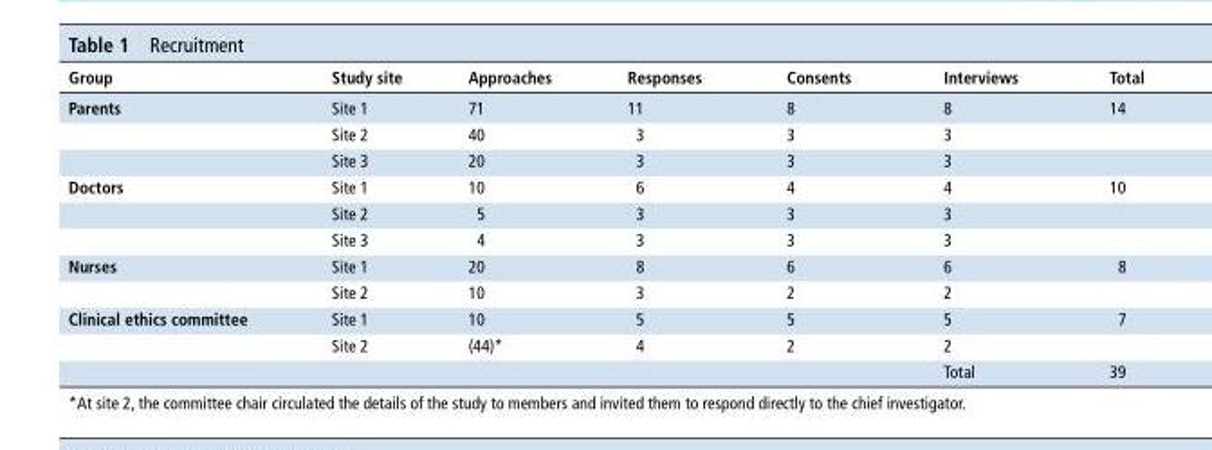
<table><thead><tr><td>Group</td><td>study site</td><td>Approaches</td><td>responses</td><td>consents</td><td>Interviews</td><td>total</td></tr></thead><tbody><tr><td rowspan="3">Parents</td><td>Site 1</td><td>71</td><td>11</td><td>8</td><td>8</td><td>14</td></tr><tr><td>Site 2</td><td>40</td><td>3</td><td>3</td><td>3</td><td></td></tr><tr><td>Site 3</td><td>20</td><td>3</td><td>3</td><td>3</td><td></td></tr><tr><td rowspan="3">Doctors</td><td>Site 1</td><td>10</td><td>6</td><td>4</td><td>4</td><td>10</td></tr><tr><td>Site 2</td><td>5</td><td>3</td><td>3</td><td>3</td><td></td></tr><tr><td>Site 3</td><td>4</td><td>3</td><td>3</td><td>3</td><td></td></tr><tr><td rowspan="2">nurses</td><td>Site 1</td><td>20</td><td>8</td><td>6</td><td>6</td><td>8</td></tr><tr><td>Site 2</td><td>10</td><td>3</td><td>2</td><td>2</td><td></td></tr><tr><td rowspan="3">clinical ethics committee</td><td>Site 1</td><td>10</td><td>5</td><td>5</td><td>5</td><td>7</td></tr><tr><td>Site 2</td><td>(44)*</td><td>4</td><td>2</td><td>2</td><td></td></tr><tr><td></td><td></td><td></td><td></td><td>Total</td><td>39</td></tr></tbody></table>